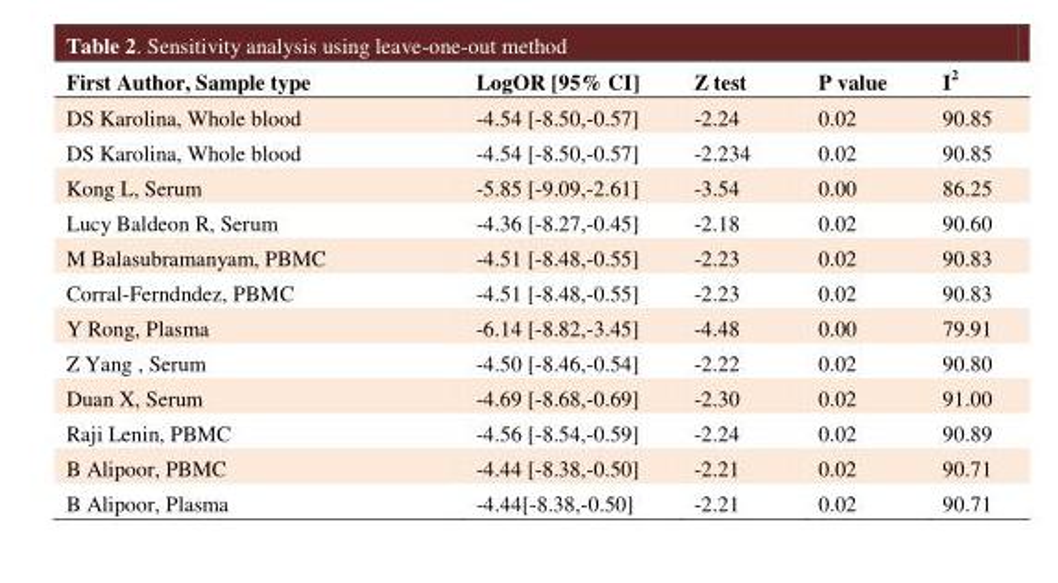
<table><thead><tr><td>First Author, Sample type</td><td>LogOR [95% CI]</td><td>Z test</td><td>P value</td><td>I<sup>2</sup></td></tr></thead><tbody><tr><td>DS Karolina, Whole blood</td><td>-4.54 [-8.50,-0.57]</td><td>-2.24</td><td>0.02</td><td>90.85</td></tr><tr><td>DS Karolina, Whole blood</td><td>-4.54 [-8.50,-0.57]</td><td>-2.234</td><td>0.02</td><td>90.85</td></tr><tr><td>Kong L, Serum</td><td>-5.85 [-9.09,-2.61]</td><td>-3.54</td><td>0.00</td><td>86.25</td></tr><tr><td>Lucy Baldeon R, Serum</td><td>-4.36 [-8.27,-0.45]</td><td>-2.18</td><td>0.02</td><td>90.60</td></tr><tr><td>M Balasubramanyam, PBMC</td><td>-4.51 [-8.48,-0.55]</td><td>-2.23</td><td>0.02</td><td>90.83</td></tr><tr><td>Corral-Ferndndez, PBMC</td><td>-4.51 [-8.48,-0.55]</td><td>-2.23</td><td>0.02</td><td>90.83</td></tr><tr><td>Y Rong, Plasma</td><td>-6.14 [-8.82,-3.45]</td><td>-4.48</td><td>0.00</td><td>79.91</td></tr><tr><td>Z Yang , Serum</td><td>-4.50 [-8.46,-0.54]</td><td>-2.22</td><td>0.02</td><td>90.80</td></tr><tr><td>Duan X, Serum</td><td>-4.69 [-8.68,-0.69]</td><td>-2.30</td><td>0.02</td><td>91.00</td></tr><tr><td>Raji Lenin, PBMC</td><td>-4.56 [-8.54,-0.59]</td><td>-2.24</td><td>0.02</td><td>90.89</td></tr><tr><td>B Alipoor, PBMC</td><td>-4.44 [-8.38,-0.50]</td><td>-2.21</td><td>0.02</td><td>90.71</td></tr><tr><td>B Alipoor, Plasma</td><td>-4.44[-8.38,-0.50]</td><td>-2.21</td><td>0.02</td><td>90.71</td></tr></tbody></table>